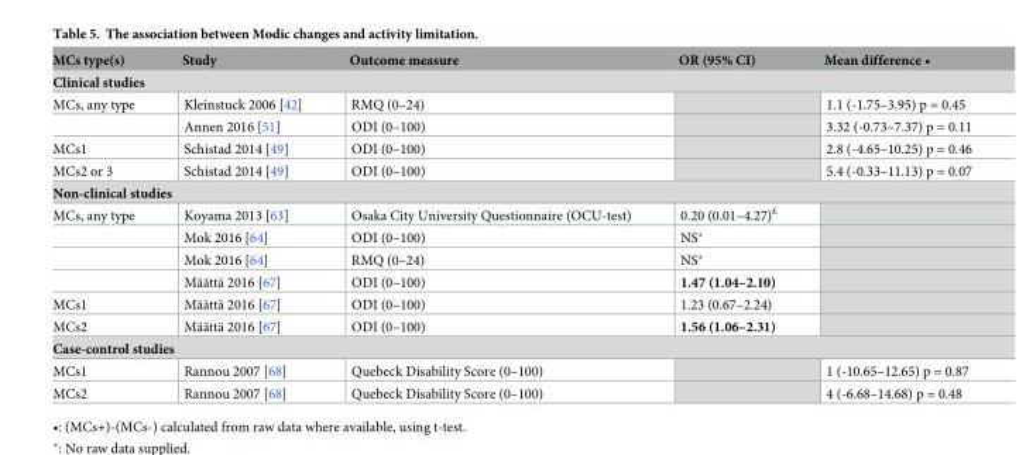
<table><thead><tr><td>MCs type(s)</td><td>Study</td><td>Outcome measure</td><td>OR (95% CI)</td><td>Mean difference •</td></tr></thead><tbody><tr><td colspan="5">Clinical studies</td></tr><tr><td rowspan="2">MCs, any type</td><td>Kleinstuck 2006 [42]</td><td>RMQ (0–24)</td><td></td><td>1.1 (-1.75–3.95) p = 0.45</td></tr><tr><td>Annen 2016 [51]</td><td>ODI (0–100)</td><td></td><td>3.32 (-0.73–7.37) p = 0.11</td></tr><tr><td>MCs1</td><td>Schistad 2014 [49]</td><td>ODI (0–100)</td><td></td><td>2.8 (-4.65–10.25) p = 0.46</td></tr><tr><td>MCs2 or 3</td><td>Schistad 2014 [49]</td><td>ODI (0–100)</td><td></td><td>5.4 (-0.33–11.13) p = 0.07</td></tr><tr><td colspan="5">Non-clinical studies</td></tr><tr><td rowspan="4">MCs, any type</td><td>Koyama 2013 [63]</td><td>Osaka City University Questionnaire (OCU-test)</td><td>0.20 (0.01–4.27)<sup>£</sup></td><td></td></tr><tr><td>Mok 2016 [64]</td><td>ODI (0–100)</td><td>NS*</td><td></td></tr><tr><td>Mok 2016 [64]</td><td>RMQ (0–24)</td><td>NS*</td><td></td></tr><tr><td>Ma¨a¨tta¨ 2016 [67]</td><td>ODI (0–100)</td><td>1.47 (1.04–2.10)</td><td></td></tr><tr><td>MCs1</td><td>Ma¨a¨tta¨ 2016 [67]</td><td>ODI (0–100)</td><td>1.23 (0.67–2.24)</td><td></td></tr><tr><td>MCs2</td><td>Ma¨a¨tta¨ 2016 [67]</td><td>ODI (0–100)</td><td>1.56 (1.06–2.31)</td><td></td></tr><tr><td colspan="5">Case-control studies</td></tr><tr><td>MCs1</td><td>Rannou 2007 [68]</td><td>Quebeck Disability Score (0–100)</td><td></td><td>1 (-10.65–12.65) p = 0.87</td></tr><tr><td>MCs2</td><td>Rannou 2007 [68]</td><td>Quebeck Disability Score (0–100)</td><td></td><td>4 (-6.68–14.68) p = 0.48</td></tr></tbody></table>